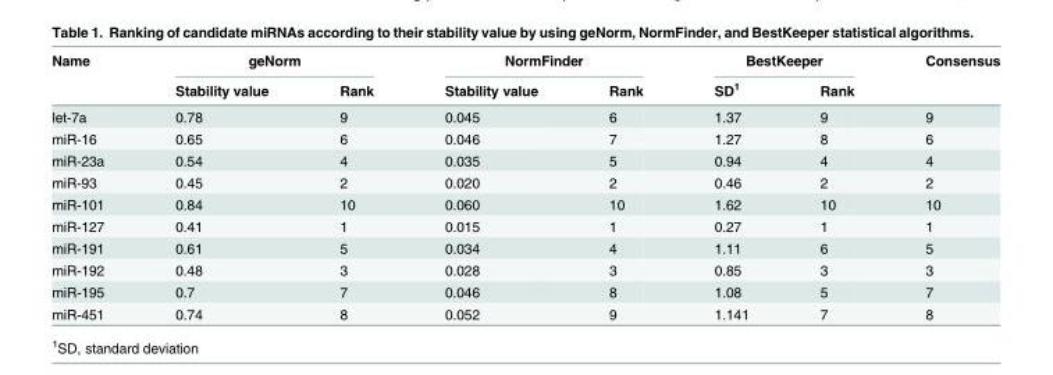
<table><thead><tr><td rowspan="2">Name</td><td colspan="2">geNorm</td><td colspan="2">NormFinder</td><td colspan="2">BestKeeper</td><td rowspan="2">Consensus</td></tr><tr><td>Stability value</td><td>Rank</td><td>Stability value</td><td>Rank</td><td>SD<sup>1</sup></td><td>Rank</td></tr></thead><tbody><tr><td>let-7a</td><td>0.78</td><td>9</td><td>0.045</td><td>6</td><td>1.37</td><td>9</td><td>9</td></tr><tr><td>miR-16</td><td>0.65</td><td>6</td><td>0.046</td><td>7</td><td>1.27</td><td>8</td><td>6</td></tr><tr><td>miR-23a</td><td>0.54</td><td>4</td><td>0.035</td><td>5</td><td>0.94</td><td>4</td><td>4</td></tr><tr><td>miR-93</td><td>0.45</td><td>2</td><td>0.020</td><td>2</td><td>0.46</td><td>2</td><td>2</td></tr><tr><td>miR-101</td><td>0.84</td><td>10</td><td>0.060</td><td>10</td><td>1.62</td><td>10</td><td>10</td></tr><tr><td>miR-127</td><td>0.41</td><td>1</td><td>0.015</td><td>1</td><td>0.27</td><td>1</td><td>1</td></tr><tr><td>miR-191</td><td>0.61</td><td>5</td><td>0.034</td><td>4</td><td>1.11</td><td>6</td><td>5</td></tr><tr><td>miR-192</td><td>0.48</td><td>3</td><td>0.028</td><td>3</td><td>0.85</td><td>3</td><td>3</td></tr><tr><td>miR-195</td><td>0.7</td><td>7</td><td>0.046</td><td>8</td><td>1.08</td><td>5</td><td>7</td></tr><tr><td>miR-451</td><td>0.74</td><td>8</td><td>0.052</td><td>9</td><td>1.141</td><td>7</td><td>8</td></tr></tbody></table>